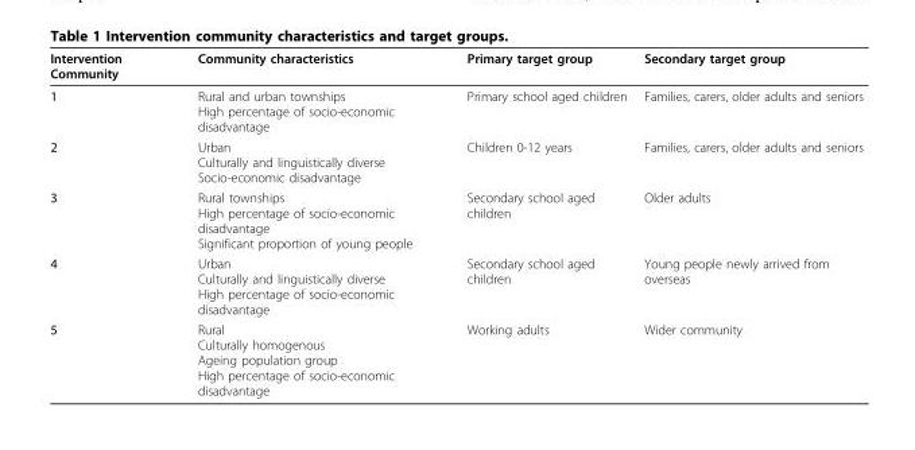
<table><thead><tr><td>Intervention Community</td><td>Community characteristics</td><td>Primary target group</td><td>Secondary target group</td></tr></thead><tbody><tr><td>1</td><td>Rural and urban townships High percentage of socio-economic disadvantage</td><td>Primary school aged children</td><td>Families, carers, older adults and seniors</td></tr><tr><td>2</td><td>Urban Culturally and linguistically diverse Socio-economic disadvantage</td><td>Children 0-12 years</td><td>Families, carers, older adults and seniors</td></tr><tr><td>3</td><td>Rural townships High percentage of socio-economic disadvantage Significant proportion of young people</td><td>Secondary school aged children</td><td>Older adults</td></tr><tr><td>4</td><td>Urban Culturally and linguistically diverse High percentage of socio-economic disadvantage</td><td>Secondary school aged children</td><td>Young people newly arrived from overseas</td></tr><tr><td>5</td><td>Rural Culturally homogenous Ageing population group High percentage of socio-economic disadvantage</td><td>Working adults</td><td>Wider community</td></tr></tbody></table>